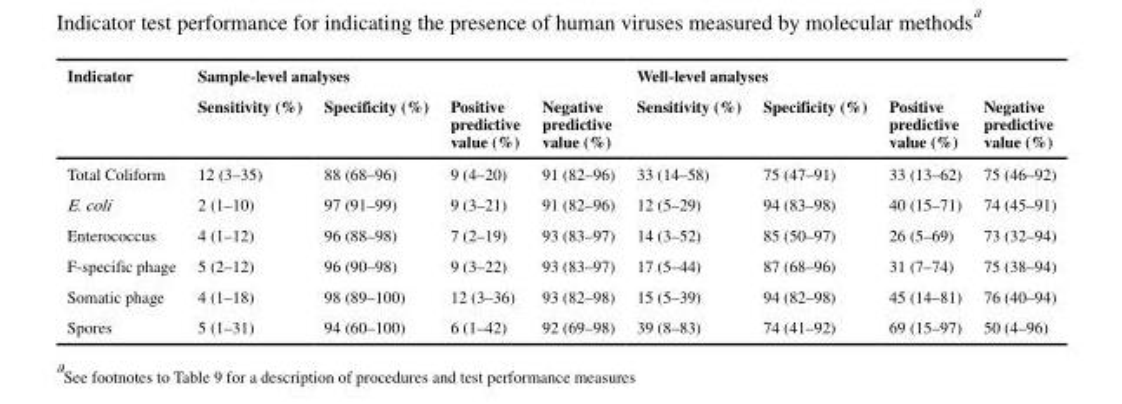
<table><thead><tr><td rowspan="2">Indicator</td><td colspan="4">Sample-level analyses</td><td colspan="4">Well-level analyses</td></tr><tr><td>Sensitivity (%)</td><td>Specificity (%)</td><td>Positive predictive value (%)</td><td>Negative predictive value (%)</td><td>Sensitivity (%)</td><td>Specificity (%)</td><td>Positive predictive value (%)</td><td>Negative predictive value (%)</td></tr></thead><tbody><tr><td>Total Coliform</td><td>12 (3–35)</td><td>88 (68–96)</td><td>9 (4–20)</td><td>91 (82–96)</td><td>33 (14–58)</td><td>75 (47–91)</td><td>33 (13–62)</td><td>75 (46–92)</td></tr><tr><td>E. coli</td><td>2 (1–10)</td><td>97 (91–99)</td><td>9 (3–21)</td><td>91 (82–96)</td><td>12 (5–29)</td><td>94 (83–98)</td><td>40 (15–71)</td><td>74 (45–91)</td></tr><tr><td>Enterococcus</td><td>4 (1–12)</td><td>96 (88–98)</td><td>7 (2–19)</td><td>93 (83–97)</td><td>14 (3–52)</td><td>85 (50–97)</td><td>26 (5–69)</td><td>73 (32–94)</td></tr><tr><td>F-specific phage</td><td>5 (2–12)</td><td>96 (90–98)</td><td>9 (3–22)</td><td>93 (83–97)</td><td>17 (5–44)</td><td>87 (68–96)</td><td>31 (7–74)</td><td>75 (38–94)</td></tr><tr><td>Somatic phage</td><td>4 (1–18)</td><td>98 (89–100)</td><td>12 (3–36)</td><td>93 (82–98)</td><td>15 (5–39)</td><td>94 (82–98)</td><td>45 (14–81)</td><td>76 (40–94)</td></tr><tr><td>Spores</td><td>5 (1–31)</td><td>94 (60–100)</td><td>6 (1–42)</td><td>92 (69–98)</td><td>39 (8–83)</td><td>74 (41–92)</td><td>69 (15–97)</td><td>50 (4–96)</td></tr></tbody></table>